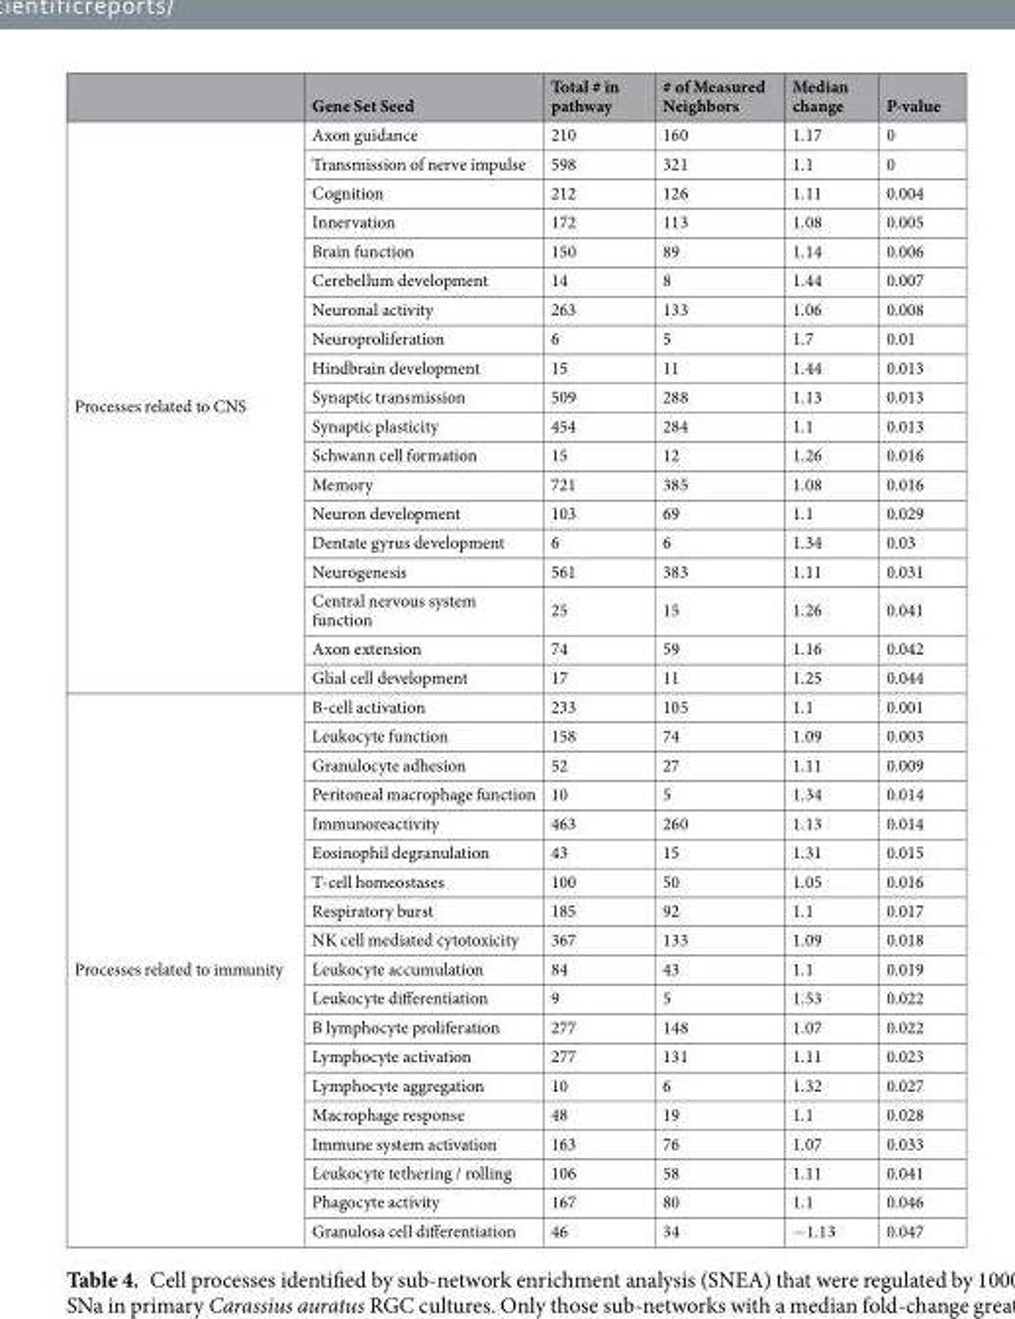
<table><thead><tr><td></td><td>Gene Set Seed</td><td>Total # in pathway</td><td># of Measured Neighbors</td><td>Median change</td><td>P-value</td></tr></thead><tbody><tr><td rowspan="19">Processes related to CNS</td><td>Axon guidance</td><td>210</td><td>160</td><td>1.17</td><td>0</td></tr><tr><td>Transmission of nerve impulse</td><td>598</td><td>321</td><td>1.1</td><td>0</td></tr><tr><td>Cognition</td><td>212</td><td>126</td><td>1.11</td><td>0.004</td></tr><tr><td>Innervation</td><td>172</td><td>113</td><td>1.08</td><td>0.005</td></tr><tr><td>Brain function</td><td>150</td><td>89</td><td>1.14</td><td>0.006</td></tr><tr><td>Cerebellum development</td><td>14</td><td>8</td><td>1.44</td><td>0.007</td></tr><tr><td>Neuronal activity</td><td>263</td><td>133</td><td>1.06</td><td>0.008</td></tr><tr><td>Neuroproliferation</td><td>6</td><td>5</td><td>1.7</td><td>0.01</td></tr><tr><td>Hindbrain development</td><td>15</td><td>11</td><td>1.44</td><td>0.013</td></tr><tr><td>Synaptic transmission</td><td>509</td><td>288</td><td>1.13</td><td>0.013</td></tr><tr><td>Synaptic plasticity</td><td>454</td><td>284</td><td>1.1</td><td>0.013</td></tr><tr><td>Schwann cell formation</td><td>15</td><td>12</td><td>1.26</td><td>0.016</td></tr><tr><td>Memory</td><td>721</td><td>385</td><td>1.08</td><td>0.016</td></tr><tr><td>Neuron development</td><td>103</td><td>69</td><td>1.1</td><td>0.029</td></tr><tr><td>Dentate gyrus development</td><td>6</td><td>6</td><td>1.34</td><td>0.03</td></tr><tr><td>Neurogenesis</td><td>561</td><td>383</td><td>1.11</td><td>0.031</td></tr><tr><td>Central nervous system function</td><td>25</td><td>15</td><td>1.26</td><td>0.041</td></tr><tr><td>Axon extension</td><td>74</td><td>59</td><td>1.16</td><td>0.042</td></tr><tr><td>Glial cell development</td><td>17</td><td>11</td><td>1.25</td><td>0.044</td></tr><tr><td rowspan="19">Processes related to immunity</td><td>B-cell activation</td><td>233</td><td>105</td><td>1.1</td><td>0.001</td></tr><tr><td>Leukocyte function</td><td>158</td><td>74</td><td>1.09</td><td>0.003</td></tr><tr><td>Granulocyte adhesion</td><td>52</td><td>27</td><td>1.11</td><td>0.009</td></tr><tr><td>Peritoneal macrophage function</td><td>10</td><td>5</td><td>1.34</td><td>0.014</td></tr><tr><td>Immunoreactivity</td><td>463</td><td>260</td><td>1.13</td><td>0.014</td></tr><tr><td>Eosinophil degranulation</td><td>43</td><td>15</td><td>1.31</td><td>0.015</td></tr><tr><td>T-cell homeostases</td><td>100</td><td>50</td><td>1.05</td><td>0.016</td></tr><tr><td>Respiratory burst</td><td>185</td><td>92</td><td>1.1</td><td>0.017</td></tr><tr><td>NK cell mediated cytotoxicity</td><td>367</td><td>133</td><td>1.09</td><td>0.018</td></tr><tr><td>Leukocyte accumulation</td><td>84</td><td>43</td><td>1.1</td><td>0.019</td></tr><tr><td>Leukocyte differentiation</td><td>9</td><td>5</td><td>1.53</td><td>0.022</td></tr><tr><td>B lymphocyte proliferation</td><td>277</td><td>148</td><td>1.07</td><td>0.022</td></tr><tr><td>Lymphocyte activation</td><td>277</td><td>131</td><td>1.11</td><td>0.023</td></tr><tr><td>Lymphocyte aggregation</td><td>10</td><td>6</td><td>1.32</td><td>0.027</td></tr><tr><td>Macrophage response</td><td>48</td><td>19</td><td>1.1</td><td>0.028</td></tr><tr><td>Immune system activation</td><td>163</td><td>76</td><td>1.07</td><td>0.033</td></tr><tr><td>Leukocyte tethering / rolling</td><td>106</td><td>58</td><td>1.11</td><td>0.041</td></tr><tr><td>Phagocyte activity</td><td>167</td><td>80</td><td>1.1</td><td>0.046</td></tr><tr><td>Granulosa cell differentiation</td><td>46</td><td>34</td><td>−1.13</td><td>0.047</td></tr></tbody></table>